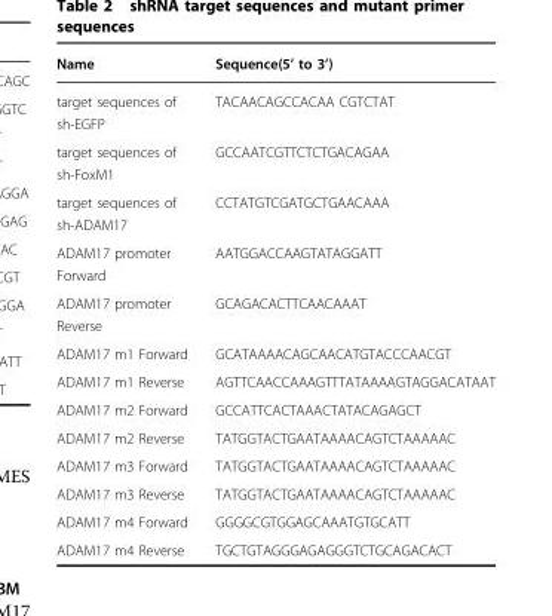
<table><thead><tr><td>Name</td><td>Sequence(5’ to 3’)</td></tr></thead><tbody><tr><td>target sequences of sh-EGFP</td><td>TACAACAGCCACAA CGTCTAT</td></tr><tr><td>target sequences of sh-FoxM1</td><td>GCCAATCGTTCTCTGACAGAA</td></tr><tr><td>target sequences of sh-ADAM17</td><td>CCTATGTCGATGCTGAACAAA</td></tr><tr><td>ADAM17 promoter Forward</td><td>AATGGACCAAGTATAGGATT</td></tr><tr><td>ADAM17 promoter Reverse</td><td>GCAGACACTTCAACAAAT</td></tr><tr><td>ADAM17 m1 Forward</td><td>GCATAAAACAGCAACATGTACCCAACGT</td></tr><tr><td>ADAM17 m1 Reverse</td><td>AGTTCAACCAAAGTTTATAAAAGTAGGACATAAT</td></tr><tr><td>ADAM17 m2 Forward</td><td>GCCATTCACTAAACTATACAGAGCT</td></tr><tr><td>ADAM17 m2 Reverse</td><td>TATGGTACTGAATAAAACAGTCTAAAAAC</td></tr><tr><td>ADAM17 m3 Forward</td><td>TATGGTACTGAATAAAACAGTCTAAAAAC</td></tr><tr><td>ADAM17 m3 Reverse</td><td>TATGGTACTGAATAAAACAGTCTAAAAAC</td></tr><tr><td>ADAM17 m4 Forward</td><td>GGGGCGTGGAGCAAATGTGCATT</td></tr><tr><td>ADAM17 m4 Reverse</td><td>TGCTGTAGGGAGAGGGTCTGCAGACACT</td></tr></tbody></table>